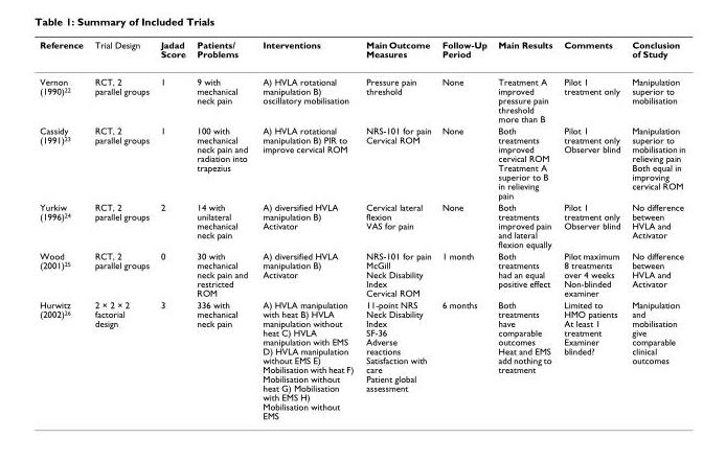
<table><thead><tr><td>Reference</td><td>Trial Design</td><td>Jadad Score</td><td>Patients/ Problems</td><td>Interventions</td><td>Main Outcome Measures</td><td>Follow-Up Period</td><td>Main Results</td><td>Comments</td><td>Conclusion of Study</td></tr></thead><tbody><tr><td>Vernon (1990)<sup>22</sup></td><td>RCT, 2 parallel groups</td><td>1</td><td>9 with mechanical neck pain</td><td>A) HVLA rotational manipulation B) oscillatory mobilisation</td><td>Pressure pain threshold</td><td>None</td><td>Treatment A improved pressure pain threshold more than B</td><td>Pilot 1 treatment only</td><td>Manipulation superior to mobilisation</td></tr><tr><td>Cassidy (1991)<sup>23</sup></td><td>RCT, 2 parallel groups</td><td>1</td><td>100 with mechanical neck pain and radiation into trapezius</td><td>A) HVLA rotational manipulation B) PIR to improve cervical ROM</td><td>NRS-101 for pain Cervical ROM</td><td>None</td><td>Both treatments improved cervical ROM Treatment A superior to B in relieving pain</td><td>Pilot 1 treatment only Observer blind</td><td>Manipulation superior to mobilisation in relieving pain Both equal in improving cervical ROM</td></tr><tr><td>Yurkiw (1996)<sup>24</sup></td><td>RCT, 2 parallel groups</td><td>2</td><td>14 with unilateral mechanical neck pain</td><td>A) diversified HVLA manipulation B) Activator</td><td>Cervical lateral flexion VAS for pain</td><td>None</td><td>Both treatments improved pain and lateral flexion equally</td><td>Pilot 1 treatment only Observer blind</td><td>No difference between HVLA and Activator</td></tr><tr><td>Wood (2001)<sup>25</sup></td><td>RCT, 2 parallel groups</td><td>0</td><td>30 with mechanical neck pain and restricted ROM</td><td>A) diversified HVLA manipulation B) Activator</td><td>NRS-101 for pain McGill Neck Disability Index Cervical ROM</td><td>1 month</td><td>Both treatments had an equal positive effect</td><td>Pilot maximum 8 treatments over 4 weeks Non-blinded examiner</td><td>No difference between HVLA and Activator</td></tr><tr><td>Hurwitz (2002)<sup>26</sup></td><td>2 × 2 × 2 factorial design</td><td>3</td><td>336 with mechanical neck pain</td><td>A) HVLA manipulation with heat B) HVLA manipulation without heat C) HVLA manipulation with EMS D) HVLA manipulation without EMS E) Mobilisation with heat F) Mobilisation without heat G) Mobilisation with EMS H) Mobilisation without EMS</td><td>11-point NRS Neck Disability Index SF-36 Adverse reactions Satisfaction with care Patient global assessment</td><td>6 months</td><td>Both treatments have comparable outcomes Heat and EMS add nothing to treatment</td><td>Limited to HMO patients At least 1 treatment Examiner blinded?</td><td>Manipulation and mobilisation give comparable clinical outcomes</td></tr></tbody></table>